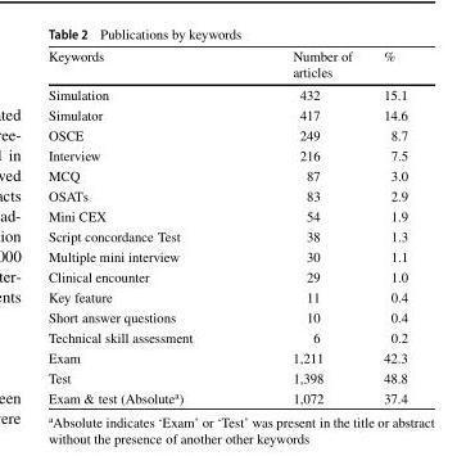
<table><thead><tr><td>Keywords</td><td>Number of articles</td><td>%</td></tr></thead><tbody><tr><td>Simulation</td><td>432</td><td>15.1</td></tr><tr><td>Simulator</td><td>417</td><td>14.6</td></tr><tr><td>OSCE</td><td>249</td><td>8.7</td></tr><tr><td>Interview</td><td>216</td><td>7.5</td></tr><tr><td>MCQ</td><td>87</td><td>3.0</td></tr><tr><td>OSATs</td><td>83</td><td>2.9</td></tr><tr><td>Mini CEX</td><td>54</td><td>1.9</td></tr><tr><td>Script concordance Test</td><td>38</td><td>1.3</td></tr><tr><td>Multiple mini interview</td><td>30</td><td>1.1</td></tr><tr><td>Clinical encounter</td><td>29</td><td>1.0</td></tr><tr><td>Key feature</td><td>11</td><td>0.4</td></tr><tr><td>Short answer questions</td><td>10</td><td>0.4</td></tr><tr><td>Technical skill assessment</td><td>6</td><td>0.2</td></tr><tr><td>Exam</td><td>1,211</td><td>42.3</td></tr><tr><td>Test</td><td>1,398</td><td>48.8</td></tr><tr><td>Exam &amp; test (Absolute<sup>a</sup>)</td><td>1,072</td><td>37.4</td></tr></tbody></table>